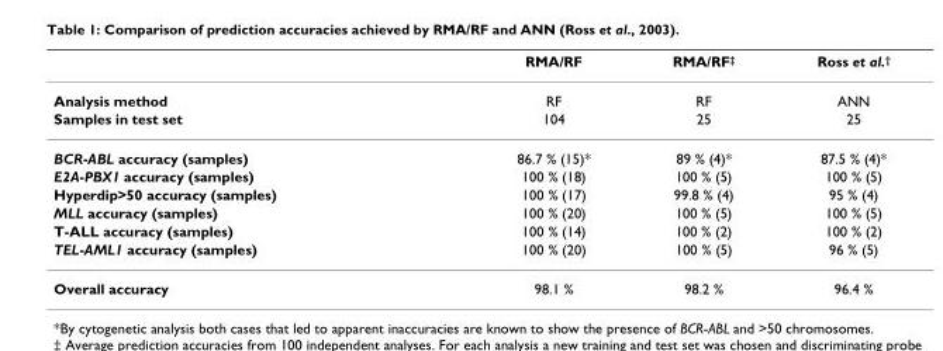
<table><thead><tr><td></td><td>RMA/RF</td><td>RMA/RF‡</td><td>Ross et al.†</td></tr></thead><tbody><tr><td>Analysis method</td><td>RF</td><td>RF</td><td>ANN</td></tr><tr><td>Samples in test set</td><td>104</td><td>25</td><td>25</td></tr><tr><td>BCR-ABL accuracy (samples)</td><td>86.7 % (15)*</td><td>89 % (4)*</td><td>87.5 % (4)*</td></tr><tr><td>E2A-PBX1 accuracy (samples)</td><td>100 % (18)</td><td>100 % (5)</td><td>100 % (5)</td></tr><tr><td>Hyperdip&gt;50 accuracy (samples)</td><td>100 % (17)</td><td>99.8 % (4)</td><td>95 % (4)</td></tr><tr><td>MLL accuracy (samples)</td><td>100 % (20)</td><td>100 % (5)</td><td>100 % (5)</td></tr><tr><td>T-ALL accuracy (samples)</td><td>100 % (14)</td><td>100 % (2)</td><td>100 % (2)</td></tr><tr><td>TEL-AML1 accuracy (samples)</td><td>100 % (20)</td><td>100 % (5)</td><td>96 % (5)</td></tr><tr><td>Overall accuracy</td><td>98.1 %</td><td>98.2 %</td><td>96.4 %</td></tr></tbody></table>